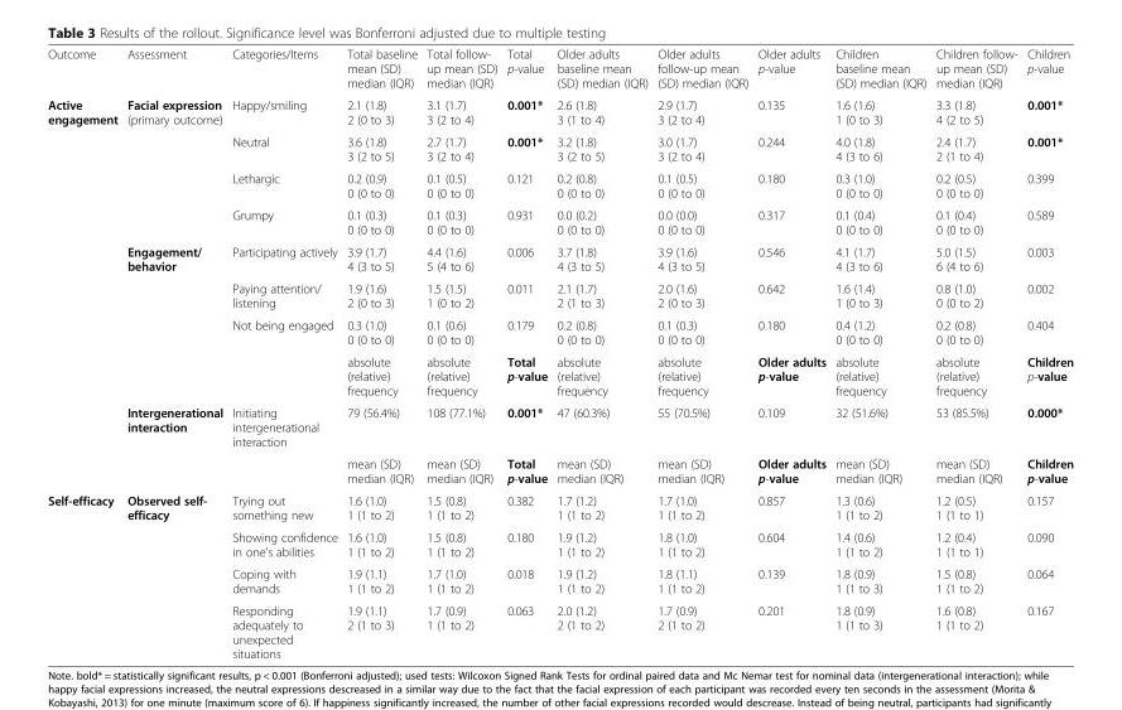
<table><tbody><tr><td>Outcome</td><td>Assessment</td><td>Categories/Items</td><td>Total baseline mean (SD) median (IQR)</td><td>Total follow- up mean (SD) median (IQR)</td><td>Total p-value</td><td>Older adults baseline mean (SD) median (IQR)</td><td>Older adults follow-up mean (SD) median (IQR)</td><td>Older adults p-value</td><td>Children baseline mean (SD) median (IQR)</td><td>Children follow- up mean (SD) median (IQR)</td><td>Children p-value</td></tr><tr><td rowspan="10">Active engagement</td><td rowspan="4">Facial expression (primary outcome)</td><td>Happy/smiling</td><td>2.1 (1.8) 2 (0 to 3)</td><td>3.1 (1.7) 3 (2 to 4)</td><td>0.001*</td><td>2.6 (1.8) 3 (1 to 4)</td><td>2.9 (1.7) 3 (2 to 4)</td><td>0.135</td><td>1.6 (1.6) 1 (0 to 3)</td><td>3.3 (1.8) 4 (2 to 5)</td><td>0.001*</td></tr><tr><td>Neutral</td><td>3.6 (1.8) 3 (2 to 5)</td><td>2.7 (1.7) 3 (2 to 4)</td><td>0.001*</td><td>3.2 (1.8) 3 (2 to 5)</td><td>3.0 (1.7) 3 (2 to 4)</td><td>0.244</td><td>4.0 (1.8) 4 (3 to 6)</td><td>2.4 (1.7) 2 (1 to 4)</td><td>0.001*</td></tr><tr><td>Lethargic</td><td>0.2 (0.9) 0 (0 to 0)</td><td>0.1 (0.5) 0 (0 to 0)</td><td>0.121</td><td>0.2 (0.8) 0 (0 to 0)</td><td>0.1 (0.5) 0 (0 to 0)</td><td>0.180</td><td>0.3 (1.0) 0 (0 to 0)</td><td>0.2 (0.5) 0 (0 to 0)</td><td>0.399</td></tr><tr><td>Grumpy</td><td>0.1 (0.3) 0 (0 to 0)</td><td>0.1 (0.3) 0 (0 to 0)</td><td>0.931</td><td>0.0 (0.2) 0 (0 to 0)</td><td>0.0 (0.0) 0 (0 to 0)</td><td>0.317</td><td>0.1 (0.4) 0 (0 to 0)</td><td>0.1 (0.4) 0 (0 to 0)</td><td>0.589</td></tr><tr><td rowspan="3">Engagement/ behavior</td><td>Participating actively</td><td>3.9 (1.7) 4 (3 to 5)</td><td>4.4 (1.6) 5 (4 to 6)</td><td>0.006</td><td>3.7 (1.8) 4 (3 to 5)</td><td>3.9 (1.6) 4 (3 to 5)</td><td>0.546</td><td>4.1 (1.7) 4 (3 to 6)</td><td>5.0 (1.5) 6 (4 to 6)</td><td>0.003</td></tr><tr><td>Paying attention/ listening</td><td>1.9 (1.6) 2 (0 to 3)</td><td>1.5 (1.5) 1 (0 to 2)</td><td>0.011</td><td>2.1 (1.7) 2 (1 to 3)</td><td>2.0 (1.6) 2 (0 to 3)</td><td>0.642</td><td>1.6 (1.4) 1 (0 to 3)</td><td>0.8 (1.0) 0 (0 to 2)</td><td>0.002</td></tr><tr><td>Not being engaged</td><td>0.3 (1.0) 0 (0 to 0)</td><td>0.1 (0.6) 0 (0 to 0)</td><td>0.179</td><td>0.2 (0.8) 0 (0 to 0)</td><td>0.1 (0.3) 0 (0 to 0)</td><td>0.180</td><td>0.4 (1.2) 0 (0 to 0)</td><td>0.2 (0.8) 0 (0 to 0)</td><td>0.404</td></tr><tr><td></td><td></td><td>absolute (relative) frequency</td><td>absolute (relative) frequency</td><td>Total p-value</td><td>absolute (relative) frequency</td><td>absolute (relative) frequency</td><td>Older adults p-value</td><td>absolute (relative) frequency</td><td>absolute (relative) frequency</td><td>Children p-value</td></tr><tr><td>Intergenerational interaction</td><td>Initiating intergenerational interaction</td><td>79 (56.4%)</td><td>108 (77.1%)</td><td>0.001*</td><td>47 (60.3%)</td><td>55 (70.5%)</td><td>0.109</td><td>32 (51.6%)</td><td>53 (85.5%)</td><td>0.000*</td></tr><tr><td></td><td></td><td>mean (SD) median (IQR)</td><td>mean (SD) median (IQR)</td><td>Total p-value</td><td>mean (SD) median (IQR)</td><td>mean (SD) median (IQR)</td><td>Older adults p-value</td><td>mean (SD) median (IQR)</td><td>mean (SD) median (IQR)</td><td>Children p-value</td></tr><tr><td rowspan="4">Self-efficacy</td><td rowspan="4">Observed self- efficacy</td><td>Trying out something new</td><td>1.6 (1.0) 1 (1 to 2)</td><td>1.5 (0.8) 1 (1 to 2)</td><td>0.382</td><td>1.7 (1.2) 1 (1 to 2)</td><td>1.7 (1.0) 1 (1 to 2)</td><td>0.857</td><td>1.3 (0.6) 1 (1 to 2)</td><td>1.2 (0.5) 1 (1 to 1)</td><td>0.157</td></tr><tr><td>Showing confidence in one&#x27;s abilities</td><td>1.6 (1.0) 1 (1 to 2)</td><td>1.5 (0.8) 1 (1 to 2)</td><td>0.180</td><td>1.9 (1.2) 1 (1 to 2)</td><td>1.8 (1.0) 1 (1 to 2)</td><td>0.604</td><td>1.4 (0.6) 1 (1 to 2)</td><td>1.2 (0.4) 1 (1 to 1)</td><td>0.090</td></tr><tr><td>Coping with demands</td><td>1.9 (1.1) 1 (1 to 2)</td><td>1.7 (1.0) 1 (1 to 2)</td><td>0.018</td><td>1.9 (1.2) 1 (1 to 2)</td><td>1.8 (1.1) 1 (1 to 2)</td><td>0.139</td><td>1.8 (0.9) 1 (1 to 3)</td><td>1.5 (0.8) 1 (1 to 2)</td><td>0.064</td></tr><tr><td>Responding adequately to unexpected situations</td><td>1.9 (1.1) 2 (1 to 3)</td><td>1.7 (0.9) 1 (1 to 2)</td><td>0.063</td><td>2.0 (1.2) 2 (1 to 2)</td><td>1.7 (0.9) 2 (1 to 2)</td><td>0.201</td><td>1.8 (0.9) 1 (1 to 3)</td><td>1.6 (0.8) 1 (1 to 2)</td><td>0.167</td></tr></tbody></table>